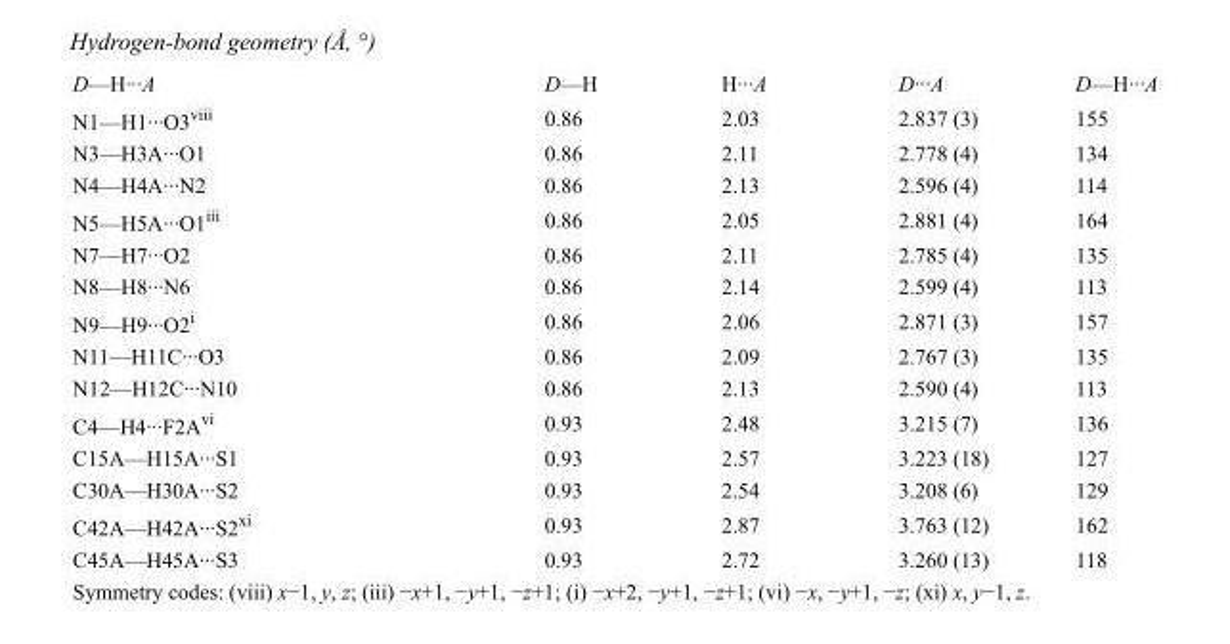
<table><tbody><tr><td>D—H···A</td><td>D—H</td><td>H···A</td><td>D···A</td><td>D—H···A</td></tr><tr><td>N1—H1···O3<sup>viii</sup></td><td>0.86</td><td>2.03</td><td>2.837 (3)</td><td>155</td></tr><tr><td>N3—H3A···O1</td><td>0.86</td><td>2.11</td><td>2.778 (4)</td><td>134</td></tr><tr><td>N4—H4A···N2</td><td>0.86</td><td>2.13</td><td>2.596 (4)</td><td>114</td></tr><tr><td>N5—H5A···O1<sup>iii</sup></td><td>0.86</td><td>2.05</td><td>2.881 (4)</td><td>164</td></tr><tr><td>N7—H7···O2</td><td>0.86</td><td>2.11</td><td>2.785 (4)</td><td>135</td></tr><tr><td>N8—H8···N6</td><td>0.86</td><td>2.14</td><td>2.599 (4)</td><td>113</td></tr><tr><td>N9—H9···O2<sup>i</sup></td><td>0.86</td><td>2.06</td><td>2.871 (3)</td><td>157</td></tr><tr><td>N11—H11C···O3</td><td>0.86</td><td>2.09</td><td>2.767 (3)</td><td>135</td></tr><tr><td>N12—H12C···N10</td><td>0.86</td><td>2.13</td><td>2.590 (4)</td><td>113</td></tr><tr><td>C4—H4···F2A<sup>vi</sup></td><td>0.93</td><td>2.48</td><td>3.215 (7)</td><td>136</td></tr><tr><td>C15A—H15A···S1</td><td>0.93</td><td>2.57</td><td>3.223 (18)</td><td>127</td></tr><tr><td>C30A—H30A···S2</td><td>0.93</td><td>2.54</td><td>3.208 (6)</td><td>129</td></tr><tr><td>C42A—H42A···S2<sup>xi</sup></td><td>0.93</td><td>2.87</td><td>3.763 (12)</td><td>162</td></tr><tr><td>C45A—H45A···S3</td><td>0.93</td><td>2.72</td><td>3.260 (13)</td><td>118</td></tr></tbody></table>